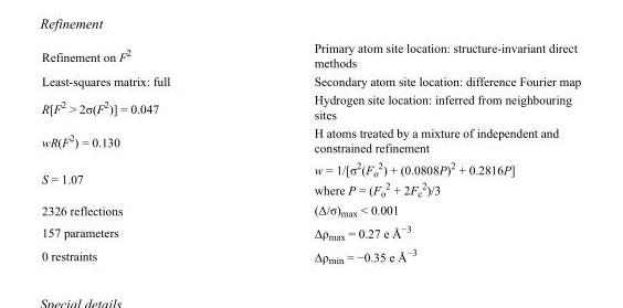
<table><tbody><tr><td>Refinement on F<sup>2</sup></td><td>Primary atom site location: structure-invariant direct methods</td></tr><tr><td>Least-squares matrix: full</td><td>Secondary atom site location: difference Fourier map</td></tr><tr><td>R[F<sup>2</sup> &gt; 2σ(F<sup>2</sup>)] = 0.047</td><td>Hydrogen site location: inferred from neighbouring sites</td></tr><tr><td>wR(F<sup>2</sup>) = 0.130</td><td>H atoms treated by a mixture of independent and constrained refinement</td></tr><tr><td>S = 1.07</td><td>w = 1/[σ<sup>2</sup>(F<sub>o</sub> <sup>2</sup>) + (0.0808P)<sup>2</sup> + 0.2816P] where P = (F<sub>o</sub> <sup>2</sup> + 2F<sub>c</sub> <sup>2</sup>)/3</td></tr><tr><td>2326 reflections</td><td>(Δ/σ)<sub>max</sub> &lt; 0.001</td></tr><tr><td>157 parameters</td><td>Δρ<sub>max</sub> = 0.27 e Å<sup>−3</sup></td></tr><tr><td>0 restraints</td><td>Δρ<sub>min</sub> = −0.35 e Å<sup>−3</sup></td></tr></tbody></table>